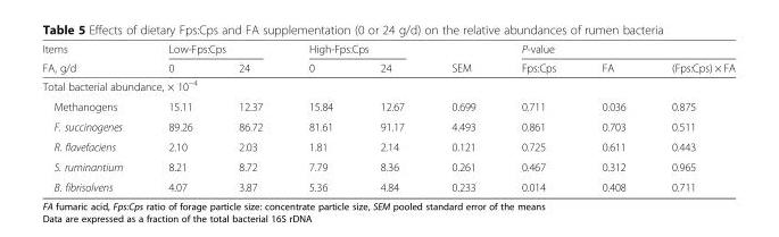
<table><thead><tr><td rowspan="2">Items FA, g/d</td><td colspan="2">Low-Fps:Cps</td><td colspan="2">High-Fps:Cps</td><td rowspan="2">SEM</td><td colspan="3">P-value</td></tr><tr><td>0</td><td>24</td><td>0</td><td>24</td><td>Fps:Cps</td><td>FA</td><td>(Fps:Cps) × FA</td></tr></thead><tbody><tr><td colspan="9">Total bacterial abundance, × 10<sup>−4</sup></td></tr><tr><td>Methanogens</td><td>15.11</td><td>12.37</td><td>15.84</td><td>12.67</td><td>0.699</td><td>0.711</td><td>0.036</td><td>0.875</td></tr><tr><td>F. succinogenes</td><td>89.26</td><td>86.72</td><td>81.61</td><td>91.17</td><td>4.493</td><td>0.861</td><td>0.703</td><td>0.511</td></tr><tr><td>R. flavefaciens</td><td>2.10</td><td>2.03</td><td>1.81</td><td>2.14</td><td>0.121</td><td>0.725</td><td>0.611</td><td>0.443</td></tr><tr><td>S. ruminantium</td><td>8.21</td><td>8.72</td><td>7.79</td><td>8.36</td><td>0.261</td><td>0.467</td><td>0.312</td><td>0.965</td></tr><tr><td>B. fibrisolvens</td><td>4.07</td><td>3.87</td><td>5.36</td><td>4.84</td><td>0.233</td><td>0.014</td><td>0.408</td><td>0.711</td></tr></tbody></table>